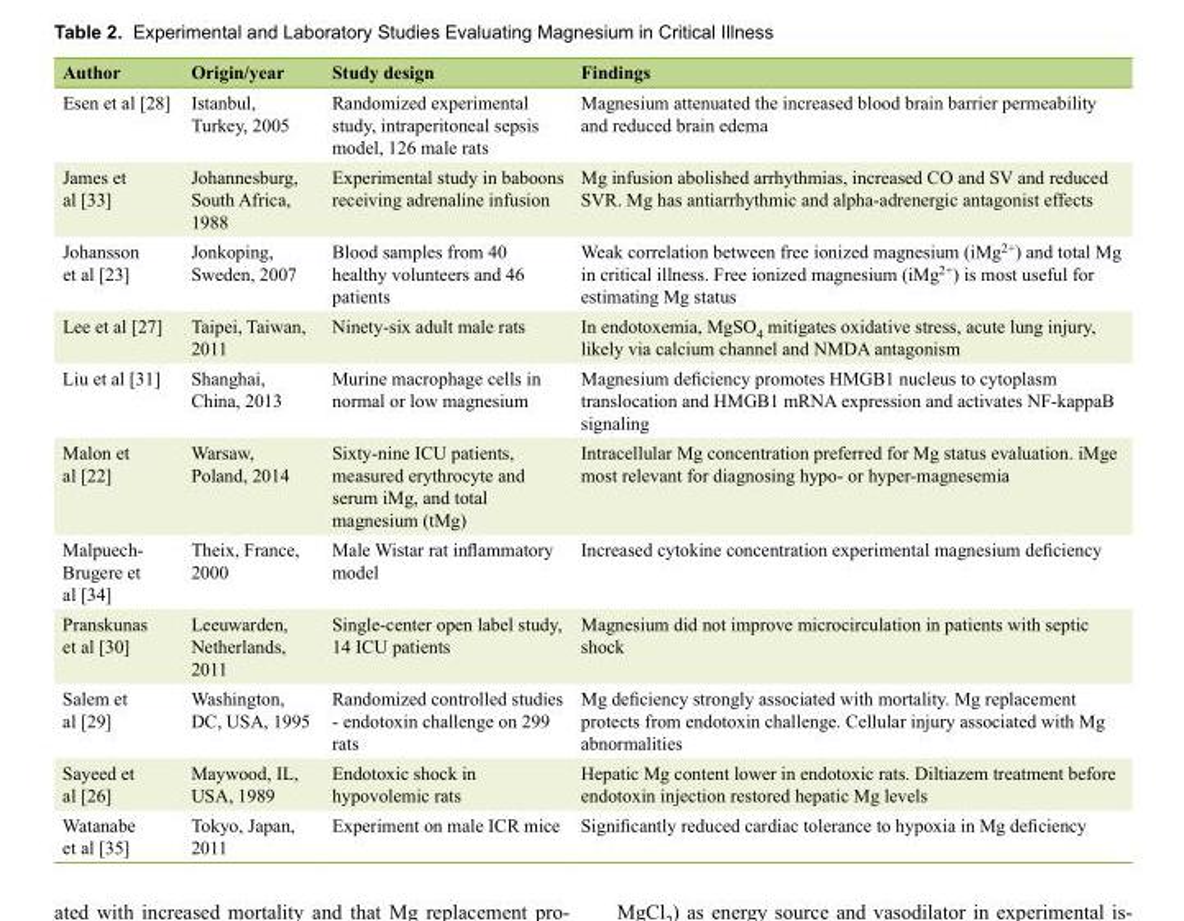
<table><thead><tr><td>Author</td><td>Origin/year</td><td>Study design</td><td>Findings</td></tr></thead><tbody><tr><td>Esen et al [28]</td><td>Istanbul, Turkey, 2005</td><td>Randomized experimental study, intraperitoneal sepsis model, 126 male rats</td><td>Magnesium attenuated the increased blood brain barrier permeability and reduced brain edema</td></tr><tr><td>James et al [33]</td><td>Johannesburg, South Africa, 1988</td><td>Experimental study in baboons receiving adrenaline infusion</td><td>Mg infusion abolished arrhythmias, increased CO and SV and reduced SVR. Mg has antiarrhythmic and alpha-adrenergic antagonist effects</td></tr><tr><td>Johansson et al [23]</td><td>Jonkoping, Sweden, 2007</td><td>Blood samples from 40 healthy volunteers and 46 patients</td><td>Weak correlation between free ionized magnesium (iMg<sup>2+</sup>) and total Mg in critical illness. Free ionized magnesium (iMg<sup>2+</sup>) is most useful for estimating Mg status</td></tr><tr><td>Lee et al [27]</td><td>Taipei, Taiwan, 2011</td><td>Ninety-six adult male rats</td><td>In endotoxemia, MgSO<sub>4</sub> mitigates oxidative stress, acute lung injury, likely via calcium channel and NMDA antagonism</td></tr><tr><td>Liu et al [31]</td><td>Shanghai, China, 2013</td><td>Murine macrophage cells in normal or low magnesium</td><td>Magnesium deficiency promotes HMGB1 nucleus to cytoplasm translocation and HMGB1 mRNA expression and activates NF-kappaB signaling</td></tr><tr><td>Malon et al [22]</td><td>Warsaw, Poland, 2014</td><td>Sixty-nine ICU patients, measured erythrocyte and serum iMg, and total magnesium (tMg)</td><td>Intracellular Mg concentration preferred for Mg status evaluation. iMge most relevant for diagnosing hypo- or hyper-magnesemia</td></tr><tr><td>Malpuech- Brugere et al [34]</td><td>Theix, France, 2000</td><td>Male Wistar rat inflammatory model</td><td>Increased cytokine concentration experimental magnesium deficiency</td></tr><tr><td>Pranskunas et al [30]</td><td>Leeuwarden, Netherlands, 2011</td><td>Single-center open label study, 14 ICU patients</td><td>Magnesium did not improve microcirculation in patients with septic shock</td></tr><tr><td>Salem et al [29]</td><td>Washington, DC, USA, 1995</td><td>Randomized controlled studies - endotoxin challenge on 299 rats</td><td>Mg deficiency strongly associated with mortality. Mg replacement protects from endotoxin challenge. Cellular injury associated with Mg abnormalities</td></tr><tr><td>Sayeed et al [26]</td><td>Maywood, IL, USA, 1989</td><td>Endotoxic shock in hypovolemic rats</td><td>Hepatic Mg content lower in endotoxic rats. Diltiazem treatment before endotoxin injection restored hepatic Mg levels</td></tr><tr><td>Watanabe et al [35]</td><td>Tokyo, Japan, 2011</td><td>Experiment on male ICR mice</td><td>Significantly reduced cardiac tolerance to hypoxia in Mg deficiency</td></tr></tbody></table>